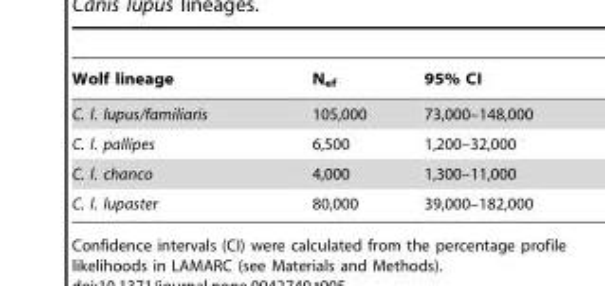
<table><thead><tr><td>Wolf lineage</td><td>N<sub>ef</sub></td><td>95% CI</td></tr></thead><tbody><tr><td>C. l. lupus/familiaris</td><td>105,000</td><td>73,000–148,000</td></tr><tr><td>C. l. pallipes</td><td>6,500</td><td>1,200–32,000</td></tr><tr><td>C. l. chanco</td><td>4,000</td><td>1,300–11,000</td></tr><tr><td>C. l. lupaster</td><td>80,000</td><td>39,000–182,000</td></tr></tbody></table>